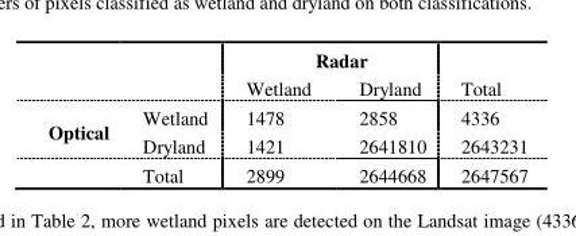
<table><thead><tr><td rowspan="2"></td><td rowspan="2"></td><td colspan="2">Radar</td><td rowspan="2">Total</td></tr><tr><td>Wetland</td><td>Dryland</td></tr></thead><tbody><tr><td rowspan="3">Optical</td><td>Wetland</td><td>1478</td><td>2858</td><td>4336</td></tr><tr><td>Dryland</td><td>1421</td><td>2641810</td><td>2643231</td></tr><tr><td>Total</td><td>2899</td><td>2644668</td><td>2647567</td></tr></tbody></table>